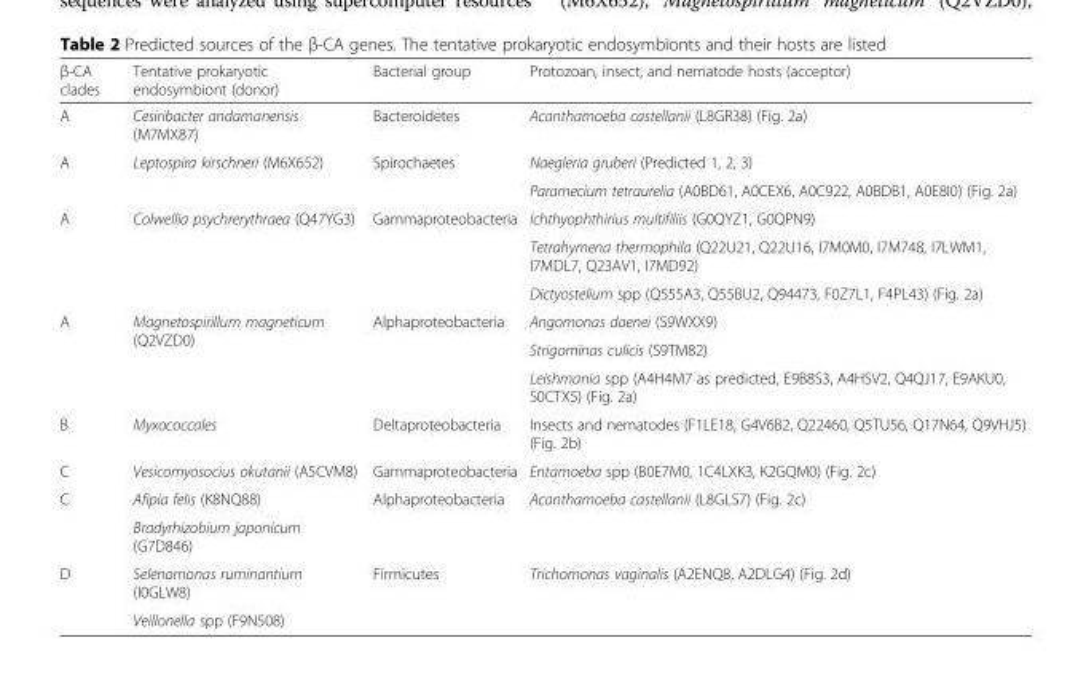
<table><thead><tr><td>β-CA clades</td><td>Tentative prokaryotic endosymbiont (donor)</td><td>Bacterial group</td><td>Protozoan, insect, and nematode hosts (acceptor)</td></tr></thead><tbody><tr><td>A</td><td>Cesiribacter andamanensis (M7MX87)</td><td>Bacteroidetes</td><td>Acanthamoeba castellanii (L8GR38) (Fig. 2a)</td></tr><tr><td rowspan="2">A</td><td rowspan="2">Leptospira kirschneri (M6X652)</td><td rowspan="2">Spirochaetes</td><td>Naegleria gruberi (Predicted 1, 2, 3)</td></tr><tr><td>Paramecium tetraurelia (A0BD61, A0CEX6, A0C922, A0BDB1, A0E8I0) (Fig. 2a)</td></tr><tr><td rowspan="3">A</td><td rowspan="3">Colwellia psychrerythraea (Q47YG3)</td><td rowspan="3">Gammaproteobacteria</td><td>Ichthyophthirius multifiliis (G0QYZ1, G0QPN9)</td></tr><tr><td>Tetrahymena thermophila (Q22U21, Q22U16, I7M0M0, I7M748, I7LWM1, I7MDL7, Q23AV1, I7MD92)</td></tr><tr><td>Dictyostelium spp (Q555A3, Q55BU2, Q94473, F0Z7L1, F4PL43) (Fig. 2a)</td></tr><tr><td rowspan="3">A</td><td rowspan="3">Magnetospirillum magneticum (Q2VZD0)</td><td rowspan="3">Alphaproteobacteria</td><td>Angomonas daenei (S9WXX9)</td></tr><tr><td>Strigominas culicis (S9TM82)</td></tr><tr><td>Leishmania spp (A4H4M7 as predicted, E9B8S3, A4HSV2, Q4QJ17, E9AKU0, S0CTX5) (Fig. 2a)</td></tr><tr><td>B</td><td>Myxococcales</td><td>Deltaproteobacteria</td><td>Insects and nematodes (F1LE18, G4V6B2, Q22460, Q5TU56, Q17N64, Q9VHJ5) (Fig. 2b)</td></tr><tr><td>C</td><td>Vesicomyosocius okutanii (A5CVM8)</td><td>Gammaproteobacteria</td><td>Entamoeba spp (B0E7M0, 1C4LXK3, K2GQM0) (Fig. 2c)</td></tr><tr><td rowspan="2">C</td><td>Afipia felis (K8NQ88)</td><td rowspan="2">Alphaproteobacteria</td><td rowspan="2">Acanthamoeba castellanii (L8GLS7) (Fig. 2c)</td></tr><tr><td>Bradyrhizobium japonicum (G7D846)</td></tr><tr><td rowspan="2">D</td><td>Selenomonas ruminantium (I0GLW8)</td><td rowspan="2">Firmicutes</td><td rowspan="2">Trichomonas vaginalis (A2ENQ8, A2DLG4) (Fig. 2d)</td></tr><tr><td>Veillonella spp (F9N508)</td></tr></tbody></table>